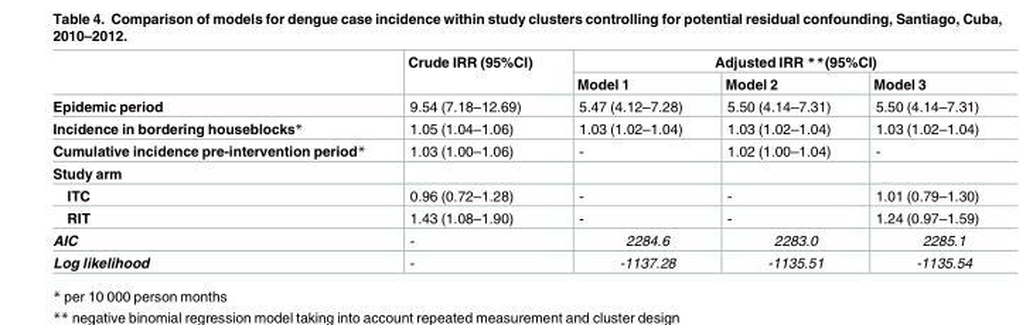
<table><thead><tr><td rowspan="2"></td><td rowspan="2">Crude IRR (95%CI)</td><td colspan="3">Adjusted IRR **(95%CI)</td></tr><tr><td>Model 1</td><td>Model 2</td><td>Model 3</td></tr></thead><tbody><tr><td>Epidemic period</td><td>9.54 (7.18–12.69)</td><td>5.47 (4.12–7.28)</td><td>5.50 (4.14–7.31)</td><td>5.50 (4.14–7.31)</td></tr><tr><td>Incidence in bordering houseblocks*</td><td>1.05 (1.04–1.06)</td><td>1.03 (1.02–1.04)</td><td>1.03 (1.02–1.04)</td><td>1.03 (1.02–1.04)</td></tr><tr><td>Cumulative incidence pre-intervention period*</td><td>1.03 (1.00–1.06)</td><td>-</td><td>1.02 (1.00–1.04)</td><td>-</td></tr><tr><td colspan="5">Study arm</td></tr><tr><td>ITC</td><td>0.96 (0.72–1.28)</td><td>-</td><td>-</td><td>1.01 (0.79–1.30)</td></tr><tr><td>RIT</td><td>1.43 (1.08–1.90)</td><td>-</td><td>-</td><td>1.24 (0.97–1.59)</td></tr><tr><td>AIC</td><td>-</td><td>2284.6</td><td>2283.0</td><td>2285.1</td></tr><tr><td>Log likelihood</td><td>-</td><td>-1137.28</td><td>-1135.51</td><td>-1135.54</td></tr></tbody></table>